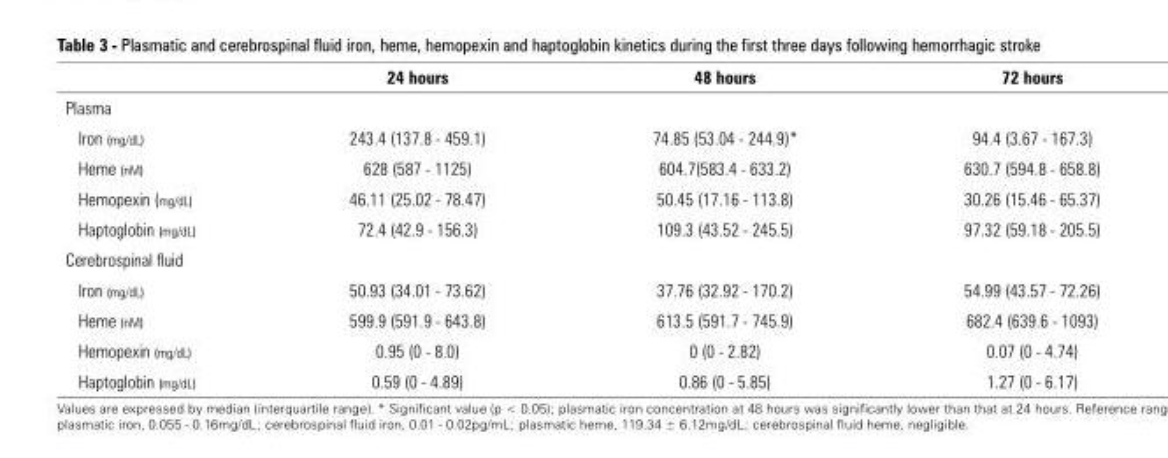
<table><thead><tr><td></td><td>24 hours</td><td>48 hours</td><td>72 hours</td></tr></thead><tbody><tr><td colspan="4">Plasma</td></tr><tr><td>Iron (mg/dL)</td><td>243.4 (137.8 - 459.1)</td><td>74.85 (53.04 - 244.9)*</td><td>94.4 (3.67 - 167.3)</td></tr><tr><td>Heme (nM)</td><td>628 (587 - 1125)</td><td>604.7(583.4 - 633.2)</td><td>630.7 (594.8 - 658.8)</td></tr><tr><td>Hemopexin (mg/dL)</td><td>46.11 (25.02 - 78.47)</td><td>50.45 (17.16 - 113.8)</td><td>30.26 (15.46 - 65.37)</td></tr><tr><td>Haptoglobin (mg/dL)</td><td>72.4 (42.9 - 156.3)</td><td>109.3 (43.52 - 245.5)</td><td>97.32 (59.18 - 205.5)</td></tr><tr><td colspan="4">Cerebrospinal fluid</td></tr><tr><td>Iron (mg/dL)</td><td>50.93 (34.01 - 73.62)</td><td>37.76 (32.92 - 170.2)</td><td>54.99 (43.57 - 72.26)</td></tr><tr><td>Heme (nM)</td><td>599.9 (591.9 - 643.8)</td><td>613.5 (591.7 - 745.9)</td><td>682.4 (639.6 - 1093)</td></tr><tr><td>Hemopexin (mg/dL)</td><td>0.95 (0 - 8.0)</td><td>0 (0 - 2.82)</td><td>0.07 (0 - 4.74)</td></tr><tr><td>Haptoglobin (mg/dL)</td><td>0.59 (0 - 4.89)</td><td>0.86 (0 - 5.85)</td><td>1.27 (0 - 6.17)</td></tr></tbody></table>